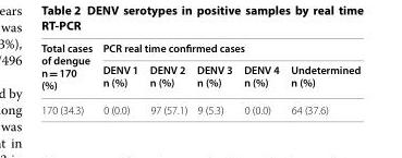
<table><thead><tr><td rowspan="2">Total cases of dengue n = 170 (%)</td><td colspan="5">PCR real time confirmed cases</td></tr><tr><td>DENV 1 n (%)</td><td>DENV 2 n (%)</td><td>DENV 3 n (%)</td><td>DENV 4 n (%)</td><td>Undetermined n (%)</td></tr></thead><tbody><tr><td>170 (34.3)</td><td>0 (0.0)</td><td>97 (57.1)</td><td>9 (5.3)</td><td>0 (0.0)</td><td>64 (37.6)</td></tr></tbody></table>